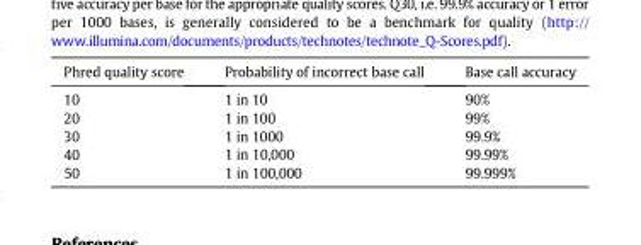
<table><thead><tr><td>Phred quality score</td><td>Probability of incorrect base call</td><td>Base call accuracy</td></tr></thead><tbody><tr><td>10</td><td>1 in 10</td><td>90%</td></tr><tr><td>20</td><td>1 in 100</td><td>99%</td></tr><tr><td>30</td><td>1 in 1000</td><td>99.9%</td></tr><tr><td>40</td><td>1 in 10,000</td><td>99.99%</td></tr><tr><td>50</td><td>1 in 100,000</td><td>99.999%</td></tr></tbody></table>